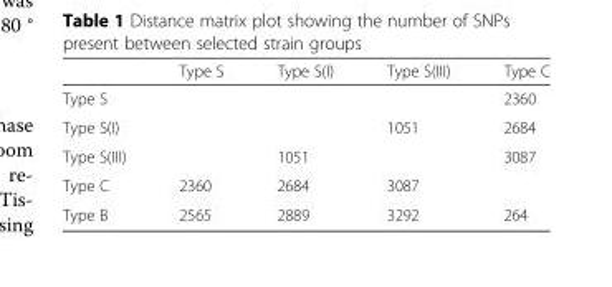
<table><thead><tr><td></td><td>Type S</td><td>Type S(I)</td><td>Type S(III)</td><td>Type C</td></tr></thead><tbody><tr><td>Type S</td><td></td><td></td><td></td><td>2360</td></tr><tr><td>Type S(I)</td><td></td><td></td><td>1051</td><td>2684</td></tr><tr><td>Type S(III)</td><td></td><td>1051</td><td></td><td>3087</td></tr><tr><td>Type C</td><td>2360</td><td>2684</td><td>3087</td><td></td></tr><tr><td>Type B</td><td>2565</td><td>2889</td><td>3292</td><td>264</td></tr></tbody></table>